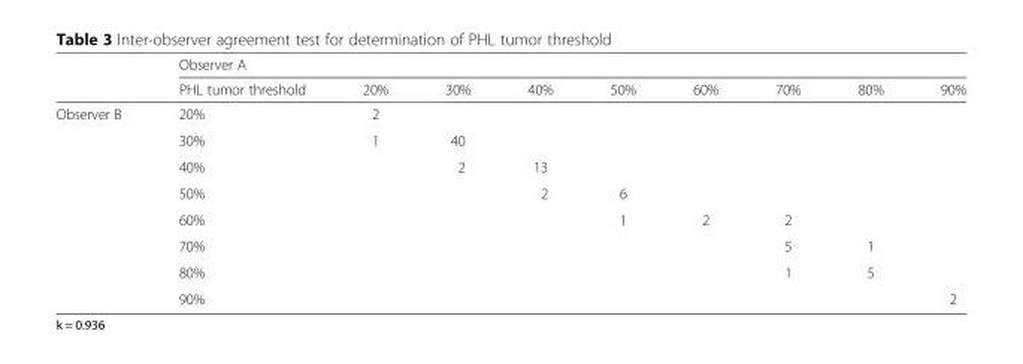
<table><thead><tr><td rowspan="2"></td><td colspan="9">Observer A</td></tr><tr><td>PHL tumor threshold</td><td>20%</td><td>30%</td><td>40%</td><td>50%</td><td>60%</td><td>70%</td><td>80%</td><td>90%</td></tr></thead><tbody><tr><td rowspan="8">Observer B</td><td>20%</td><td>2</td><td></td><td></td><td></td><td></td><td></td><td></td><td></td></tr><tr><td>30%</td><td>1</td><td>40</td><td></td><td></td><td></td><td></td><td></td><td></td></tr><tr><td>40%</td><td></td><td>2</td><td>13</td><td></td><td></td><td></td><td></td><td></td></tr><tr><td>50%</td><td></td><td></td><td>2</td><td>6</td><td></td><td></td><td></td><td></td></tr><tr><td>60%</td><td></td><td></td><td></td><td>1</td><td>2</td><td>2</td><td></td><td></td></tr><tr><td>70%</td><td></td><td></td><td></td><td></td><td></td><td>5</td><td>1</td><td></td></tr><tr><td>80%</td><td></td><td></td><td></td><td></td><td></td><td>1</td><td>5</td><td></td></tr><tr><td>90%</td><td></td><td></td><td></td><td></td><td></td><td></td><td></td><td>2</td></tr></tbody></table>